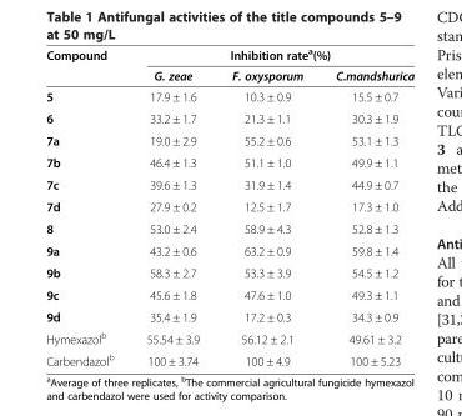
<table><thead><tr><td rowspan="2">Compound</td><td colspan="3">Inhibition rate<sup>a</sup>(%)</td></tr><tr><td>G. zeae</td><td>F. oxysporum</td><td>C.mandshurica</td></tr></thead><tbody><tr><td>5</td><td>17.9 ± 1.6</td><td>10.3 ± 0.9</td><td>15.5 ± 0.7</td></tr><tr><td>6</td><td>33.2 ± 1.7</td><td>21.3 ± 1.1</td><td>30.3 ± 1.9</td></tr><tr><td>7a</td><td>19.0 ± 2.9</td><td>55.2 ± 0.6</td><td>53.1 ± 1.3</td></tr><tr><td>7b</td><td>46.4 ± 1.3</td><td>51.1 ± 1.0</td><td>49.9 ± 1.1</td></tr><tr><td>7c</td><td>39.6 ± 1.3</td><td>31.9 ± 1.4</td><td>44.9 ± 0.7</td></tr><tr><td>7d</td><td>27.9 ± 0.2</td><td>12.5 ± 1.7</td><td>17.3 ± 1.0</td></tr><tr><td>8</td><td>53.0 ± 2.4</td><td>58.9 ± 4.3</td><td>52.8 ± 1.3</td></tr><tr><td>9a</td><td>43.2 ± 0.6</td><td>63.2 ± 0.9</td><td>59.8 ± 1.4</td></tr><tr><td>9b</td><td>58.3 ± 2.7</td><td>53.3 ± 3.9</td><td>54.5 ± 1.2</td></tr><tr><td>9c</td><td>45.6 ± 1.8</td><td>47.6 ± 1.0</td><td>49.3 ± 1.1</td></tr><tr><td>9d</td><td>35.4 ± 1.9</td><td>17.2 ± 0.3</td><td>34.3 ± 0.9</td></tr><tr><td>Hymexazol<sup>b</sup></td><td>55.54 ± 3.9</td><td>56.12 ± 2.1</td><td>49.61 ± 3.2</td></tr><tr><td>Carbendazol<sup>b</sup></td><td>100 ± 3.74</td><td>100 ± 4.9</td><td>100 ± 5.23</td></tr></tbody></table>